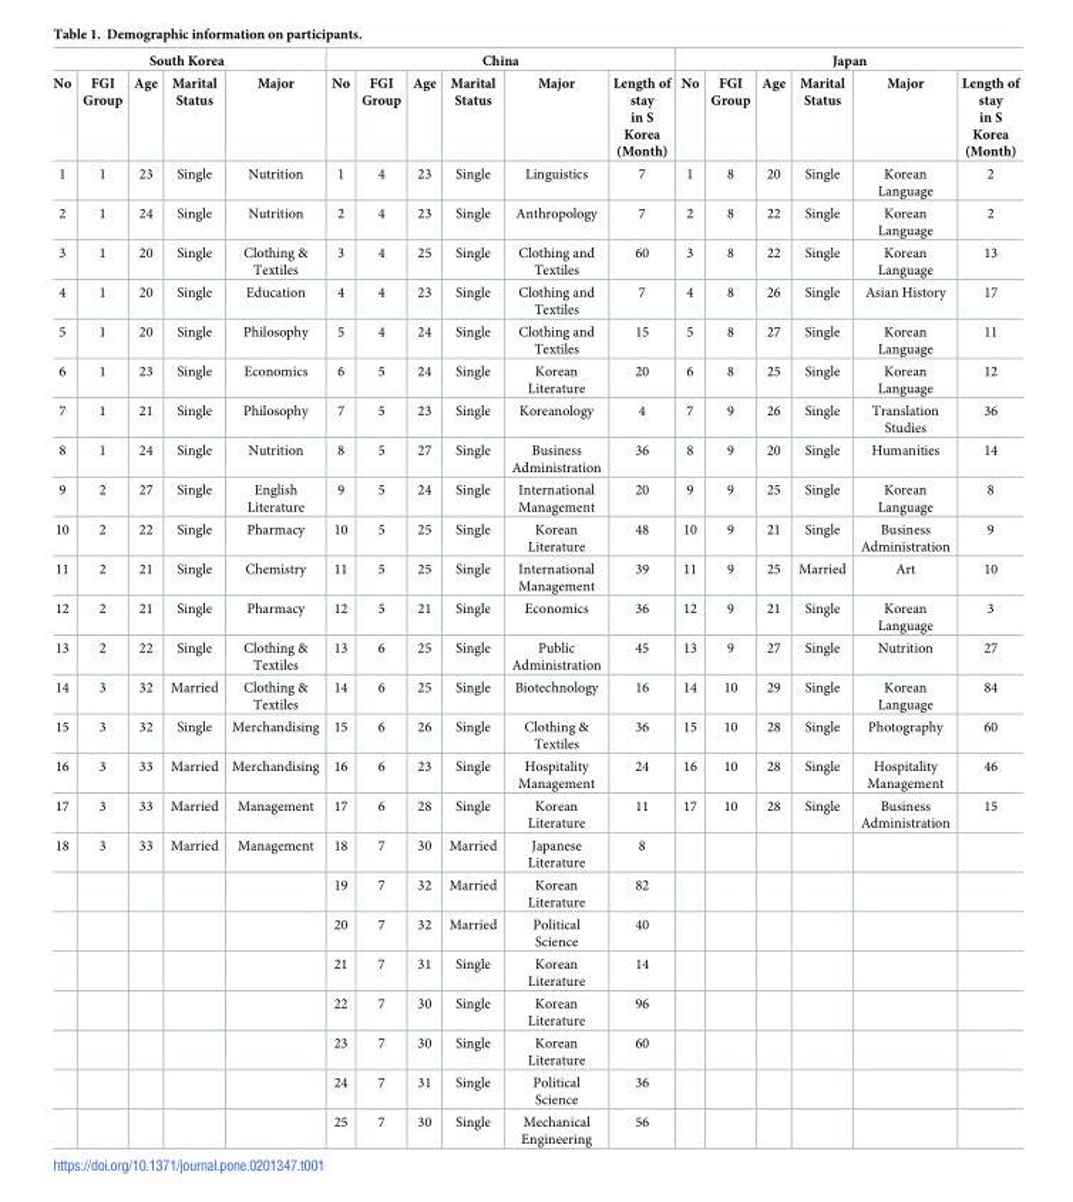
<table><thead><tr><td colspan="5">South Korea</td><td colspan="6">China</td><td colspan="6">Japan</td></tr><tr><td>No</td><td>FGI Group</td><td>Age</td><td>Marital Status</td><td>Major</td><td>No</td><td>FGI Group</td><td>Age</td><td>Marital Status</td><td>Major</td><td>Length of stay in S Korea (Month)</td><td>No</td><td>FGI Group</td><td>Age</td><td>Marital Status</td><td>Major</td><td>Length of stay in S Korea (Month)</td></tr></thead><tbody><tr><td>1</td><td>1</td><td>23</td><td>Single</td><td>Nutrition</td><td>1</td><td>4</td><td>23</td><td>Single</td><td>Linguistics</td><td>7</td><td>1</td><td>8</td><td>20</td><td>Single</td><td>Korean Language</td><td>2</td></tr><tr><td>2</td><td>1</td><td>24</td><td>Single</td><td>Nutrition</td><td>2</td><td>4</td><td>23</td><td>Single</td><td>Anthropology</td><td>7</td><td>2</td><td>8</td><td>22</td><td>Single</td><td>Korean Language</td><td>2</td></tr><tr><td>3</td><td>1</td><td>20</td><td>Single</td><td>Clothing &amp; Textiles</td><td>3</td><td>4</td><td>25</td><td>Single</td><td>Clothing and Textiles</td><td>60</td><td>3</td><td>8</td><td>22</td><td>Single</td><td>Korean Language</td><td>13</td></tr><tr><td>4</td><td>1</td><td>20</td><td>Single</td><td>Education</td><td>4</td><td>4</td><td>23</td><td>Single</td><td>Clothing and Textiles</td><td>7</td><td>4</td><td>8</td><td>26</td><td>Single</td><td>Asian History</td><td>17</td></tr><tr><td>5</td><td>1</td><td>20</td><td>Single</td><td>Philosophy</td><td>5</td><td>4</td><td>24</td><td>Single</td><td>Clothing and Textiles</td><td>15</td><td>5</td><td>8</td><td>27</td><td>Single</td><td>Korean Language</td><td>11</td></tr><tr><td>6</td><td>1</td><td>23</td><td>Single</td><td>Economics</td><td>6</td><td>5</td><td>24</td><td>Single</td><td>Korean Literature</td><td>20</td><td>6</td><td>8</td><td>25</td><td>Single</td><td>Korean Language</td><td>12</td></tr><tr><td>7</td><td>1</td><td>21</td><td>Single</td><td>Philosophy</td><td>7</td><td>5</td><td>23</td><td>Single</td><td>Koreanology</td><td>4</td><td>7</td><td>9</td><td>26</td><td>Single</td><td>Translation Studies</td><td>36</td></tr><tr><td>8</td><td>1</td><td>24</td><td>Single</td><td>Nutrition</td><td>8</td><td>5</td><td>27</td><td>Single</td><td>Business Administration</td><td>36</td><td>8</td><td>9</td><td>20</td><td>Single</td><td>Humanities</td><td>14</td></tr><tr><td>9</td><td>2</td><td>27</td><td>Single</td><td>English Literature</td><td>9</td><td>5</td><td>24</td><td>Single</td><td>International Management</td><td>20</td><td>9</td><td>9</td><td>25</td><td>Single</td><td>Korean Language</td><td>8</td></tr><tr><td>10</td><td>2</td><td>22</td><td>Single</td><td>Pharmacy</td><td>10</td><td>5</td><td>25</td><td>Single</td><td>Korean Literature</td><td>48</td><td>10</td><td>9</td><td>21</td><td>Single</td><td>Business Administration</td><td>9</td></tr><tr><td>11</td><td>2</td><td>21</td><td>Single</td><td>Chemistry</td><td>11</td><td>5</td><td>25</td><td>Single</td><td>International Management</td><td>39</td><td>11</td><td>9</td><td>25</td><td>Married</td><td>Art</td><td>10</td></tr><tr><td>12</td><td>2</td><td>21</td><td>Single</td><td>Pharmacy</td><td>12</td><td>5</td><td>21</td><td>Single</td><td>Economics</td><td>36</td><td>12</td><td>9</td><td>21</td><td>Single</td><td>Korean Language</td><td>3</td></tr><tr><td>13</td><td>2</td><td>22</td><td>Single</td><td>Clothing &amp; Textiles</td><td>13</td><td>6</td><td>25</td><td>Single</td><td>Public Administration</td><td>45</td><td>13</td><td>9</td><td>27</td><td>Single</td><td>Nutrition</td><td>27</td></tr><tr><td>14</td><td>3</td><td>32</td><td>Married</td><td>Clothing &amp; Textiles</td><td>14</td><td>6</td><td>25</td><td>Single</td><td>Biotechnology</td><td>16</td><td>14</td><td>10</td><td>29</td><td>Single</td><td>Korean Language</td><td>84</td></tr><tr><td>15</td><td>3</td><td>32</td><td>Single</td><td>Merchandising</td><td>15</td><td>6</td><td>26</td><td>Single</td><td>Clothing &amp; Textiles</td><td>36</td><td>15</td><td>10</td><td>28</td><td>Single</td><td>Photography</td><td>60</td></tr><tr><td>16</td><td>3</td><td>33</td><td>Married</td><td>Merchandising</td><td>16</td><td>6</td><td>23</td><td>Single</td><td>Hospitality Management</td><td>24</td><td>16</td><td>10</td><td>28</td><td>Single</td><td>Hospitality Management</td><td>46</td></tr><tr><td>17</td><td>3</td><td>33</td><td>Married</td><td>Management</td><td>17</td><td>6</td><td>28</td><td>Single</td><td>Korean Literature</td><td>11</td><td>17</td><td>10</td><td>28</td><td>Single</td><td>Business Administration</td><td>15</td></tr><tr><td rowspan="8">18</td><td>3</td><td>33</td><td>Married</td><td>Management</td><td>18</td><td>7</td><td>30</td><td>Married</td><td>Japanese Literature</td><td>8</td><td></td><td></td><td></td><td></td><td></td><td></td></tr><tr><td></td><td></td><td></td><td></td><td>19</td><td>7</td><td>32</td><td>Married</td><td>Korean Literature</td><td>82</td><td></td><td></td><td></td><td></td><td></td><td></td></tr><tr><td></td><td></td><td></td><td></td><td>20</td><td>7</td><td>32</td><td>Married</td><td>Political Science</td><td>40</td><td></td><td></td><td></td><td></td><td></td><td></td></tr><tr><td></td><td></td><td></td><td></td><td>21</td><td>7</td><td>31</td><td>Single</td><td>Korean Literature</td><td>14</td><td></td><td></td><td></td><td></td><td></td><td></td></tr><tr><td></td><td></td><td></td><td></td><td>22</td><td>7</td><td>30</td><td>Single</td><td>Korean Literature</td><td>96</td><td></td><td></td><td></td><td></td><td></td><td></td></tr><tr><td></td><td></td><td></td><td></td><td>23</td><td>7</td><td>30</td><td>Single</td><td>Korean Literature</td><td>60</td><td></td><td></td><td></td><td></td><td></td><td></td></tr><tr><td></td><td></td><td></td><td></td><td>24</td><td>7</td><td>31</td><td>Single</td><td>Political Science</td><td>36</td><td></td><td></td><td></td><td></td><td></td><td></td></tr><tr><td></td><td></td><td></td><td></td><td>25</td><td>7</td><td>30</td><td>Single</td><td>Mechanical Engineering</td><td>56</td><td></td><td></td><td></td><td></td><td></td><td></td></tr></tbody></table>